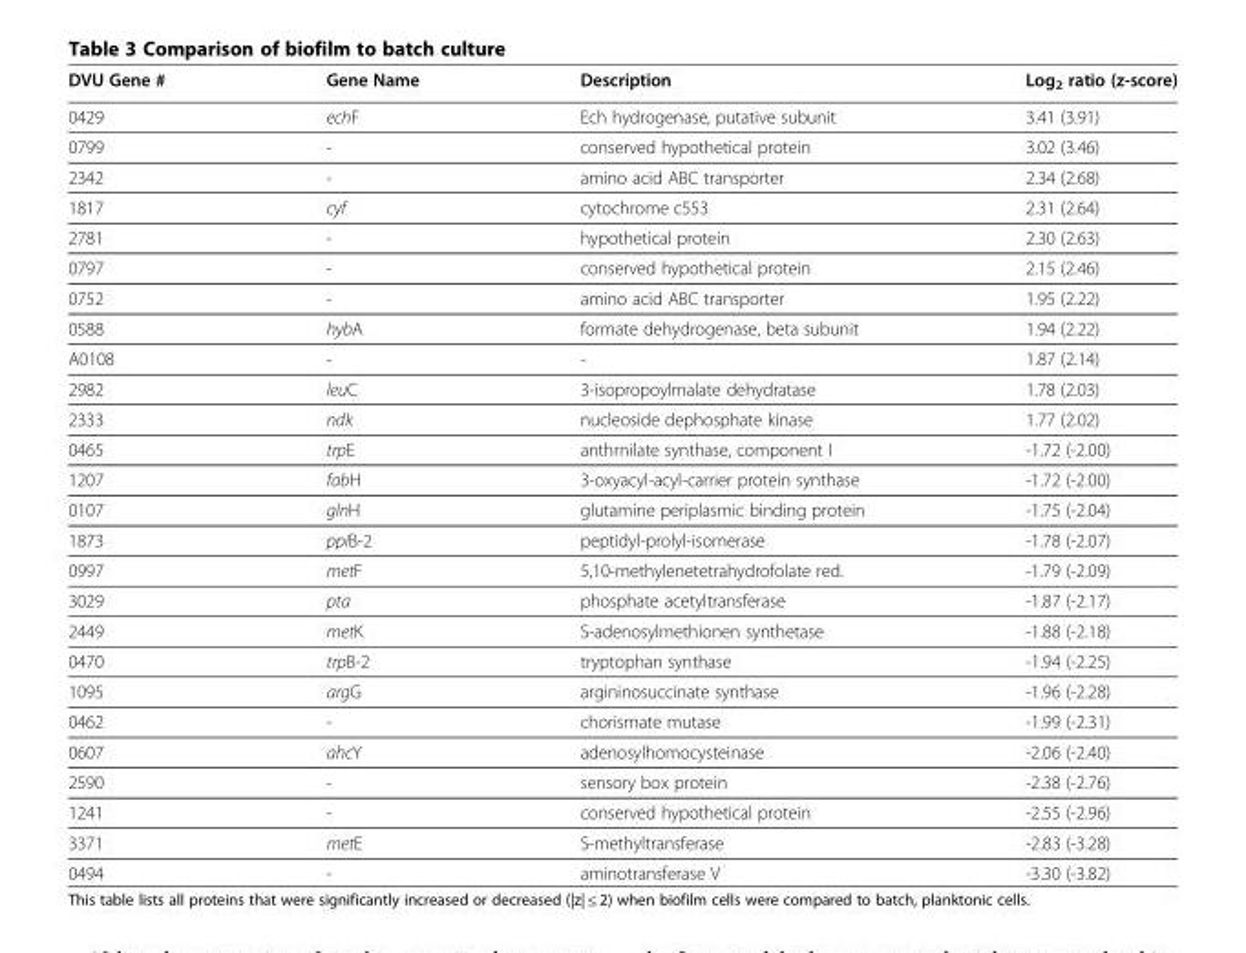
<table><thead><tr><td>DVU Gene #</td><td>Gene Name</td><td>Description</td><td>Log<sub>2</sub> ratio (z-score)</td></tr></thead><tbody><tr><td>0429</td><td>echF</td><td>Ech hydrogenase, putative subunit</td><td>3.41 (3.91)</td></tr><tr><td>0799</td><td>-</td><td>conserved hypothetical protein</td><td>3.02 (3.46)</td></tr><tr><td>2342</td><td>-</td><td>amino acid ABC transporter</td><td>2.34 (2.68)</td></tr><tr><td>1817</td><td>cyf</td><td>cytochrome c553</td><td>2.31 (2.64)</td></tr><tr><td>2781</td><td>-</td><td>hypothetical protein</td><td>2.30 (2.63)</td></tr><tr><td>0797</td><td>-</td><td>conserved hypothetical protein</td><td>2.15 (2.46)</td></tr><tr><td>0752</td><td>-</td><td>amino acid ABC transporter</td><td>1.95 (2.22)</td></tr><tr><td>0588</td><td>hybA</td><td>formate dehydrogenase, beta subunit</td><td>1.94 (2.22)</td></tr><tr><td>A0108</td><td>-</td><td>-</td><td>1.87 (2.14)</td></tr><tr><td>2982</td><td>leuC</td><td>3-isopropoylmalate dehydratase</td><td>1.78 (2.03)</td></tr><tr><td>2333</td><td>ndk</td><td>nucleoside dephosphate kinase</td><td>1.77 (2.02)</td></tr><tr><td>0465</td><td>trpE</td><td>anthrnilate synthase, component I</td><td>-1.72 (-2.00)</td></tr><tr><td>1207</td><td>fabH</td><td>3-oxyacyl-acyl-carrier protein synthase</td><td>-1.72 (-2.00)</td></tr><tr><td>0107</td><td>glnH</td><td>glutamine periplasmic binding protein</td><td>-1.75 (-2.04)</td></tr><tr><td>1873</td><td>ppiB-2</td><td>peptidyl-prolyl-isomerase</td><td>-1.78 (-2.07)</td></tr><tr><td>0997</td><td>metF</td><td>5,10-methylenetetrahydrofolate red.</td><td>-1.79 (-2.09)</td></tr><tr><td>3029</td><td>pta</td><td>phosphate acetyltransferase</td><td>-1.87 (-2.17)</td></tr><tr><td>2449</td><td>metK</td><td>S-adenosylmethionen synthetase</td><td>-1.88 (-2.18)</td></tr><tr><td>0470</td><td>trpB-2</td><td>tryptophan synthase</td><td>-1.94 (-2.25)</td></tr><tr><td>1095</td><td>argG</td><td>argininosuccinate synthase</td><td>-1.96 (-2.28)</td></tr><tr><td>0462</td><td>-</td><td>chorismate mutase</td><td>-1.99 (-2.31)</td></tr><tr><td>0607</td><td>ahcY</td><td>adenosylhomocysteinase</td><td>-2.06 (-2.40)</td></tr><tr><td>2590</td><td>-</td><td>sensory box protein</td><td>-2.38 (-2.76)</td></tr><tr><td>1241</td><td>-</td><td>conserved hypothetical protein</td><td>-2.55 (-2.96)</td></tr><tr><td>3371</td><td>metE</td><td>S-methyltransferase</td><td>-2.83 (-3.28)</td></tr><tr><td>0494</td><td>-</td><td>aminotransferase V</td><td>-3.30 (-3.82)</td></tr></tbody></table>